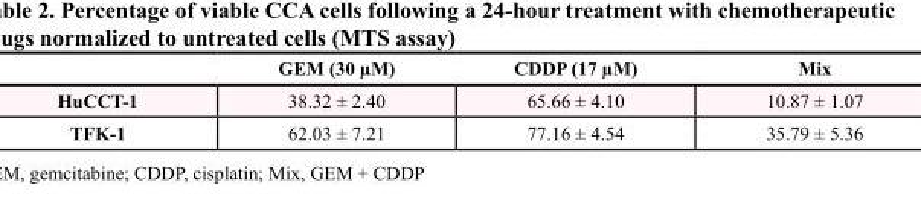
<table><thead><tr><td></td><td>GEM (30 µM)</td><td>CDDP (17 µM)</td><td>Mix</td></tr></thead><tbody><tr><td>HuCCT-1</td><td>38.32 ± 2.40</td><td>65.66 ± 4.10</td><td>10.87 ± 1.07</td></tr><tr><td>TFK-1</td><td>62.03 ± 7.21</td><td>77.16 ± 4.54</td><td>35.79 ± 5.36</td></tr></tbody></table>